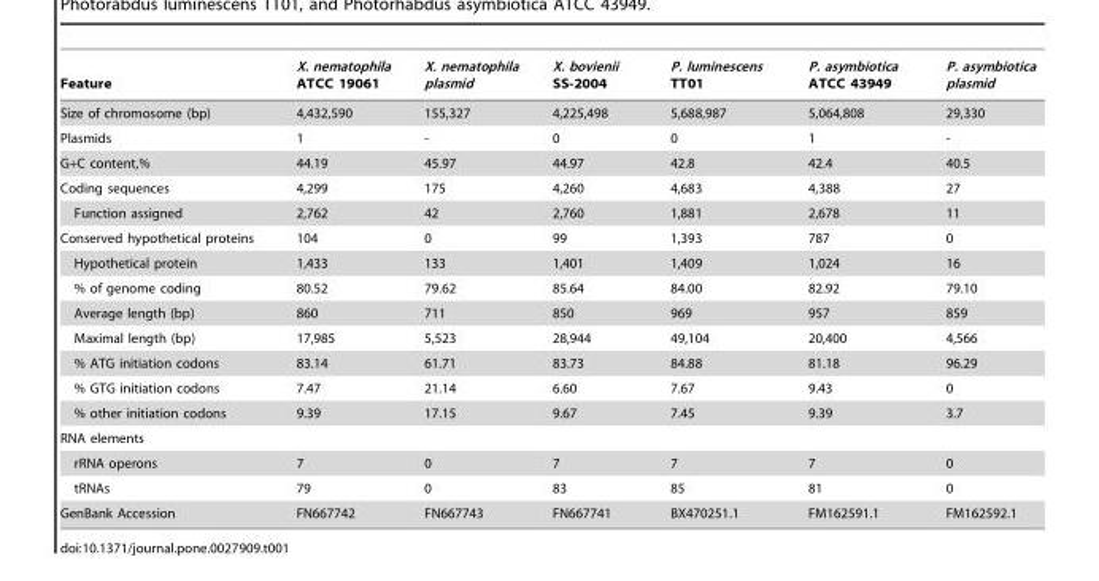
<table><thead><tr><td>Feature</td><td>X. nematophila ATCC 19061</td><td>X. nematophila plasmid</td><td>X. bovienii SS-2004</td><td>P. luminescens TT01</td><td>P. asymbiotica ATCC 43949</td><td>P. asymbiotica plasmid</td></tr></thead><tbody><tr><td>Size of chromosome (bp)</td><td>4,432,590</td><td>155,327</td><td>4,225,498</td><td>5,688,987</td><td>5,064,808</td><td>29,330</td></tr><tr><td>Plasmids</td><td>1</td><td>-</td><td>0</td><td>0</td><td>1</td><td>-</td></tr><tr><td>G+C content,%</td><td>44.19</td><td>45.97</td><td>44.97</td><td>42.8</td><td>42.4</td><td>40.5</td></tr><tr><td>Coding sequences</td><td>4,299</td><td>175</td><td>4,260</td><td>4,683</td><td>4,388</td><td>27</td></tr><tr><td>Function assigned</td><td>2,762</td><td>42</td><td>2,760</td><td>1,881</td><td>2,678</td><td>11</td></tr><tr><td>Conserved hypothetical proteins</td><td>104</td><td>0</td><td>99</td><td>1,393</td><td>787</td><td>0</td></tr><tr><td>Hypothetical protein</td><td>1,433</td><td>133</td><td>1,401</td><td>1,409</td><td>1,024</td><td>16</td></tr><tr><td>% of genome coding</td><td>80.52</td><td>79.62</td><td>85.64</td><td>84.00</td><td>82.92</td><td>79.10</td></tr><tr><td>Average length (bp)</td><td>860</td><td>711</td><td>850</td><td>969</td><td>957</td><td>859</td></tr><tr><td>Maximal length (bp)</td><td>17,985</td><td>5,523</td><td>28,944</td><td>49,104</td><td>20,400</td><td>4,566</td></tr><tr><td>% ATG initiation codons</td><td>83.14</td><td>61.71</td><td>83.73</td><td>84.88</td><td>81.18</td><td>96.29</td></tr><tr><td>% GTG initiation codons</td><td>7.47</td><td>21.14</td><td>6.60</td><td>7.67</td><td>9.43</td><td>0</td></tr><tr><td>% other initiation codons</td><td>9.39</td><td>17.15</td><td>9.67</td><td>7.45</td><td>9.39</td><td>3.7</td></tr><tr><td colspan="7">RNA elements</td></tr><tr><td>rRNA operons</td><td>7</td><td>0</td><td>7</td><td>7</td><td>7</td><td>0</td></tr><tr><td>tRNAs</td><td>79</td><td>0</td><td>83</td><td>85</td><td>81</td><td>0</td></tr><tr><td>GenBank Accession</td><td>FN667742</td><td>FN667743</td><td>FN667741</td><td>BX470251.1</td><td>FM162591.1</td><td>FM162592.1</td></tr></tbody></table>